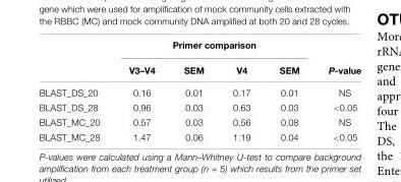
<table><thead><tr><td rowspan="2"></td><td colspan="4">Primer comparison</td><td rowspan="2">P-value</td></tr><tr><td>V3–V4</td><td>SEM</td><td>V4</td><td>SEM</td></tr></thead><tbody><tr><td>BLAST_DS_20</td><td>0.16</td><td>0.01</td><td>0.17</td><td>0.01</td><td>NS</td></tr><tr><td>BLAST_DS_28</td><td>0.96</td><td>0.03</td><td>0.63</td><td>0.03</td><td>&lt;0.05</td></tr><tr><td>BLAST_MC_20</td><td>0.57</td><td>0.03</td><td>0.56</td><td>0.08</td><td>NS</td></tr><tr><td>BLAST_MC_28</td><td>1.47</td><td>0.06</td><td>1.19</td><td>0.04</td><td>&lt;0.05</td></tr></tbody></table>